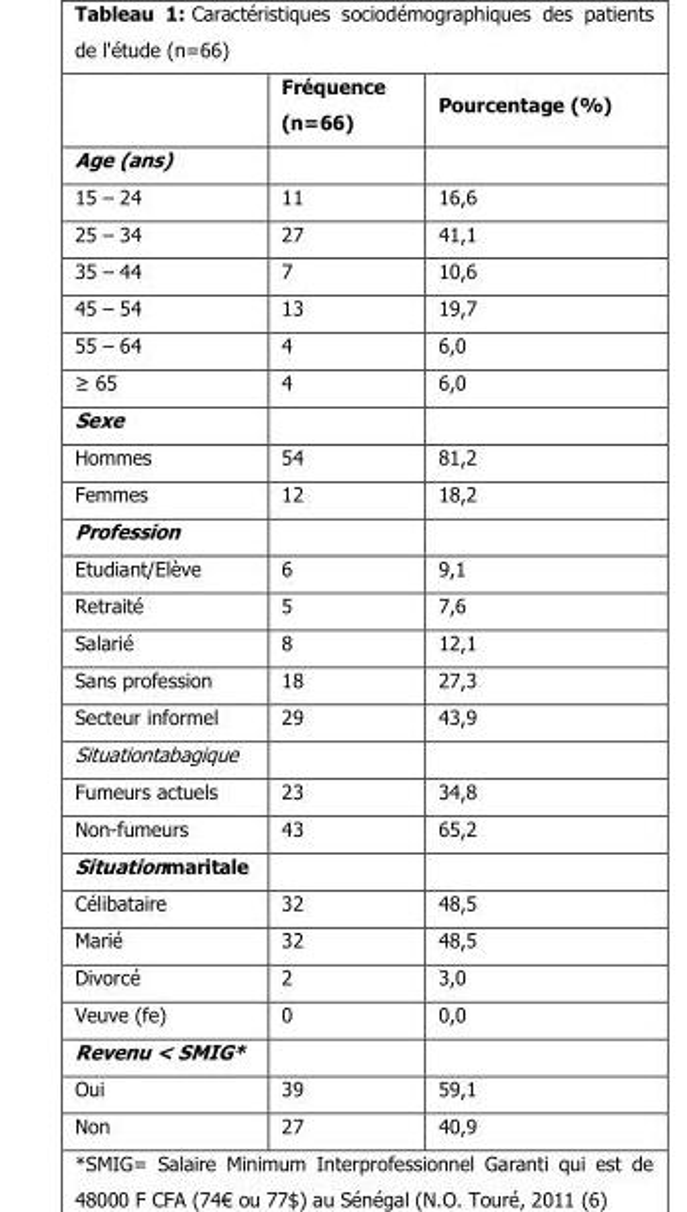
<table><thead><tr><td></td><td>Fréquence (n=66)</td><td>Pourcentage (%)</td></tr></thead><tbody><tr><td colspan="3">Age (ans)</td></tr><tr><td>15 – 24</td><td>11</td><td>16,6</td></tr><tr><td>25 – 34</td><td>27</td><td>41,1</td></tr><tr><td>35 – 44</td><td>7</td><td>10,6</td></tr><tr><td>45 – 54</td><td>13</td><td>19,7</td></tr><tr><td>55 – 64</td><td>4</td><td>6,0</td></tr><tr><td>≥ 65</td><td>4</td><td>6,0</td></tr><tr><td colspan="3">Sexe</td></tr><tr><td>Hommes</td><td>54</td><td>81,2</td></tr><tr><td>Femmes</td><td>12</td><td>18,2</td></tr><tr><td colspan="3">Profession</td></tr><tr><td>Etudiant/Elève</td><td>6</td><td>9,1</td></tr><tr><td>Retraité</td><td>5</td><td>7,6</td></tr><tr><td>Salarié</td><td>8</td><td>12,1</td></tr><tr><td>Sans profession</td><td>18</td><td>27,3</td></tr><tr><td>Secteur informel</td><td>29</td><td>43,9</td></tr><tr><td colspan="3">Situationtabagique</td></tr><tr><td>Fumeurs actuels</td><td>23</td><td>34,8</td></tr><tr><td>Non-fumeurs</td><td>43</td><td>65,2</td></tr><tr><td colspan="3">Situationmaritale</td></tr><tr><td>Célibataire</td><td>32</td><td>48,5</td></tr><tr><td>Marié</td><td>32</td><td>48,5</td></tr><tr><td>Divorcé</td><td>2</td><td>3,0</td></tr><tr><td>Veuve (fe)</td><td>0</td><td>0,0</td></tr><tr><td colspan="3">Revenu &lt; SMIG*</td></tr><tr><td>Oui</td><td>39</td><td>59,1</td></tr><tr><td>Non</td><td>27</td><td>40,9</td></tr></tbody></table>